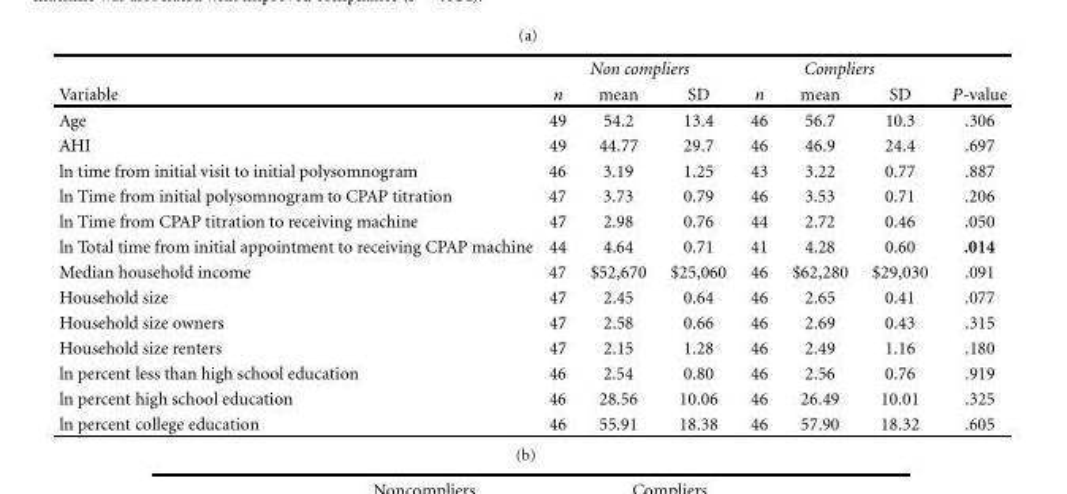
<table><thead><tr><td rowspan="2">Variable</td><td colspan="3">Non compliers</td><td colspan="3">Compliers</td><td rowspan="2">P-value</td></tr><tr><td>n</td><td>mean</td><td>SD</td><td>n</td><td>mean</td><td>SD</td></tr></thead><tbody><tr><td>Age</td><td>49</td><td>54.2</td><td>13.4</td><td>46</td><td>56.7</td><td>10.3</td><td>.306</td></tr><tr><td>AHI</td><td>49</td><td>44.77</td><td>29.7</td><td>46</td><td>46.9</td><td>24.4</td><td>.697</td></tr><tr><td>ln time from initial visit to initial polysomnogram</td><td>46</td><td>3.19</td><td>1.25</td><td>43</td><td>3.22</td><td>0.77</td><td>.887</td></tr><tr><td>ln Time from initial polysomnogram to CPAP titration</td><td>47</td><td>3.73</td><td>0.79</td><td>46</td><td>3.53</td><td>0.71</td><td>.206</td></tr><tr><td>ln Time from CPAP titration to receiving machine</td><td>47</td><td>2.98</td><td>0.76</td><td>44</td><td>2.72</td><td>0.46</td><td>.050</td></tr><tr><td>ln Total time from initial appointment to receiving CPAP machine</td><td>44</td><td>4.64</td><td>0.71</td><td>41</td><td>4.28</td><td>0.60</td><td>.014</td></tr><tr><td>Median household income</td><td>47</td><td>$52,670</td><td>$25,060</td><td>46</td><td>$62,280</td><td>$29,030</td><td>.091</td></tr><tr><td>Household size</td><td>47</td><td>2.45</td><td>0.64</td><td>46</td><td>2.65</td><td>0.41</td><td>.077</td></tr><tr><td>Household size owners</td><td>47</td><td>2.58</td><td>0.66</td><td>46</td><td>2.69</td><td>0.43</td><td>.315</td></tr><tr><td>Household size renters</td><td>47</td><td>2.15</td><td>1.28</td><td>46</td><td>2.49</td><td>1.16</td><td>.180</td></tr><tr><td>ln percent less than high school education</td><td>46</td><td>2.54</td><td>0.80</td><td>46</td><td>2.56</td><td>0.76</td><td>.919</td></tr><tr><td>ln percent high school education</td><td>46</td><td>28.56</td><td>10.06</td><td>46</td><td>26.49</td><td>10.01</td><td>.325</td></tr><tr><td>ln percent college education</td><td>46</td><td>55.91</td><td>18.38</td><td>46</td><td>57.90</td><td>18.32</td><td>.605</td></tr></tbody></table>